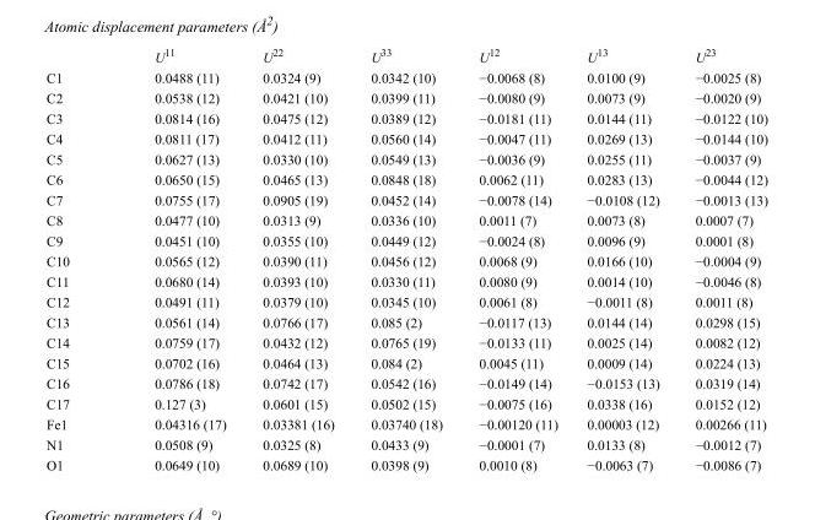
<table><thead><tr><td></td><td>U<sup>11</sup></td><td>U<sup>22</sup></td><td>U<sup>33</sup></td><td>U<sup>12</sup></td><td>U<sup>13</sup></td><td>U<sup>23</sup></td></tr></thead><tbody><tr><td>C1</td><td>0.0488 (11)</td><td>0.0324 (9)</td><td>0.0342 (10)</td><td>−0.0068 (8)</td><td>0.0100 (9)</td><td>−0.0025 (8)</td></tr><tr><td>C2</td><td>0.0538 (12)</td><td>0.0421 (10)</td><td>0.0399 (11)</td><td>−0.0080 (9)</td><td>0.0073 (9)</td><td>−0.0020 (9)</td></tr><tr><td>C3</td><td>0.0814 (16)</td><td>0.0475 (12)</td><td>0.0389 (12)</td><td>−0.0181 (11)</td><td>0.0144 (11)</td><td>−0.0122 (10)</td></tr><tr><td>C4</td><td>0.0811 (17)</td><td>0.0412 (11)</td><td>0.0560 (14)</td><td>−0.0047 (11)</td><td>0.0269 (13)</td><td>−0.0144 (10)</td></tr><tr><td>C5</td><td>0.0627 (13)</td><td>0.0330 (10)</td><td>0.0549 (13)</td><td>−0.0036 (9)</td><td>0.0255 (11)</td><td>−0.0037 (9)</td></tr><tr><td>C6</td><td>0.0650 (15)</td><td>0.0465 (13)</td><td>0.0848 (18)</td><td>0.0062 (11)</td><td>0.0283 (13)</td><td>−0.0044 (12)</td></tr><tr><td>C7</td><td>0.0755 (17)</td><td>0.0905 (19)</td><td>0.0452 (14)</td><td>−0.0078 (14)</td><td>−0.0108 (12)</td><td>−0.0013 (13)</td></tr><tr><td>C8</td><td>0.0477 (10)</td><td>0.0313 (9)</td><td>0.0336 (10)</td><td>0.0011 (7)</td><td>0.0073 (8)</td><td>0.0007 (7)</td></tr><tr><td>C9</td><td>0.0451 (10)</td><td>0.0355 (10)</td><td>0.0449 (12)</td><td>−0.0024 (8)</td><td>0.0096 (9)</td><td>0.0001 (8)</td></tr><tr><td>C10</td><td>0.0565 (12)</td><td>0.0390 (11)</td><td>0.0456 (12)</td><td>0.0068 (9)</td><td>0.0166 (10)</td><td>−0.0004 (9)</td></tr><tr><td>C11</td><td>0.0680 (14)</td><td>0.0393 (10)</td><td>0.0330 (11)</td><td>0.0080 (9)</td><td>0.0014 (10)</td><td>−0.0046 (8)</td></tr><tr><td>C12</td><td>0.0491 (11)</td><td>0.0379 (10)</td><td>0.0345 (10)</td><td>0.0061 (8)</td><td>−0.0011 (8)</td><td>0.0011 (8)</td></tr><tr><td>C13</td><td>0.0561 (14)</td><td>0.0766 (17)</td><td>0.085 (2)</td><td>−0.0117 (13)</td><td>0.0144 (14)</td><td>0.0298 (15)</td></tr><tr><td>C14</td><td>0.0759 (17)</td><td>0.0432 (12)</td><td>0.0765 (19)</td><td>−0.0133 (11)</td><td>0.0025 (14)</td><td>0.0082 (12)</td></tr><tr><td>C15</td><td>0.0702 (16)</td><td>0.0464 (13)</td><td>0.084 (2)</td><td>0.0045 (11)</td><td>0.0009 (14)</td><td>0.0224 (13)</td></tr><tr><td>C16</td><td>0.0786 (18)</td><td>0.0742 (17)</td><td>0.0542 (16)</td><td>−0.0149 (14)</td><td>−0.0153 (13)</td><td>0.0319 (14)</td></tr><tr><td>C17</td><td>0.127 (3)</td><td>0.0601 (15)</td><td>0.0502 (15)</td><td>−0.0075 (16)</td><td>0.0338 (16)</td><td>0.0152 (12)</td></tr><tr><td>Fe1</td><td>0.04316 (17)</td><td>0.03381 (16)</td><td>0.03740 (18)</td><td>−0.00120 (11)</td><td>0.00003 (12)</td><td>0.00266 (11)</td></tr><tr><td>N1</td><td>0.0508 (9)</td><td>0.0325 (8)</td><td>0.0433 (9)</td><td>−0.0001 (7)</td><td>0.0133 (8)</td><td>−0.0012 (7)</td></tr><tr><td>O1</td><td>0.0649 (10)</td><td>0.0689 (10)</td><td>0.0398 (9)</td><td>0.0010 (8)</td><td>−0.0063 (7)</td><td>−0.0086 (7)</td></tr></tbody></table>